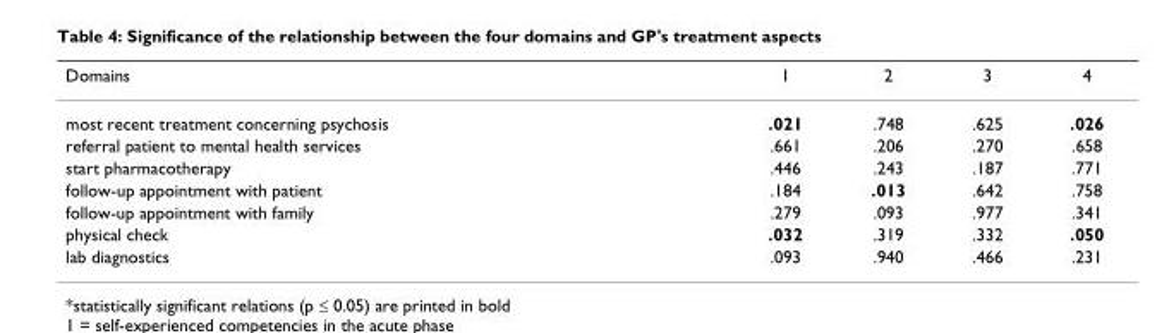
<table><thead><tr><td>Domains</td><td>1</td><td>2</td><td>3</td><td>4</td></tr></thead><tbody><tr><td>most recent treatment concerning psychosis</td><td>.021</td><td>.748</td><td>.625</td><td>.026</td></tr><tr><td>referral patient to mental health services</td><td>.661</td><td>.206</td><td>.270</td><td>.658</td></tr><tr><td>start pharmacotherapy</td><td>.446</td><td>.243</td><td>.187</td><td>.771</td></tr><tr><td>follow-up appointment with patient</td><td>.184</td><td>.013</td><td>.642</td><td>.758</td></tr><tr><td>follow-up appointment with family</td><td>.279</td><td>.093</td><td>.977</td><td>.341</td></tr><tr><td>physical check</td><td>.032</td><td>.319</td><td>.332</td><td>.050</td></tr><tr><td>lab diagnostics</td><td>.093</td><td>.940</td><td>.466</td><td>.231</td></tr></tbody></table>